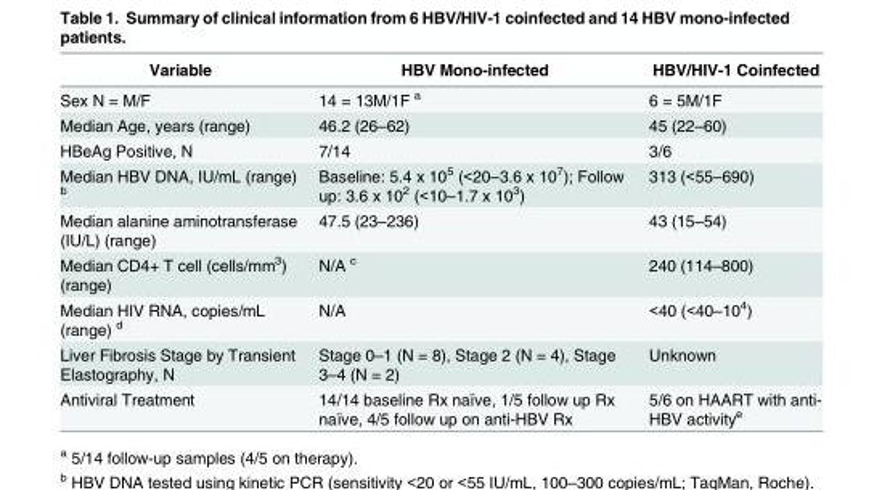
<table><thead><tr><td>Variable</td><td>HBV Mono-infected</td><td>HBV/HIV-1 Coinfected</td></tr></thead><tbody><tr><td>Sex N = M/F</td><td>14 = 13M/1F <sup>a</sup></td><td>6 = 5M/1F</td></tr><tr><td>Median Age, years (range)</td><td>46.2 (26–62)</td><td>45 (22–60)</td></tr><tr><td>HBeAg Positive, N</td><td>7/14</td><td>3/6</td></tr><tr><td>Median HBV DNA, IU/mL (range) <sup>b</sup></td><td>Baseline: 5.4 x 10<sup>5</sup> (&lt;20–3.6 x 10<sup>7</sup>); Follow up: 3.6 x 10<sup>2</sup> (&lt;10–1.7 x 10<sup>3</sup>)</td><td>313 (&lt;55–690)</td></tr><tr><td>Median alanine aminotransferase (IU/L) (range)</td><td>47.5 (23–236)</td><td>43 (15–54)</td></tr><tr><td>Median CD4+ T cell (cells/mm<sup>3</sup>) (range)</td><td>N/A <sup>c</sup></td><td>240 (114–800)</td></tr><tr><td>Median HIV RNA, copies/mL (range) <sup>d</sup></td><td>N/A</td><td>&lt;40 (&lt;40–10<sup>4</sup>)</td></tr><tr><td>Liver Fibrosis Stage by Transient Elastography, N</td><td>Stage 0–1 (N = 8), Stage 2 (N = 4), Stage 3–4 (N = 2)</td><td>Unknown</td></tr><tr><td>Antiviral Treatment</td><td>14/14 baseline Rx naïve, 1/5 follow up Rx naïve, 4/5 follow up on anti-HBV Rx</td><td>5/6 on HAART with anti- HBV activity<sup>e</sup></td></tr></tbody></table>